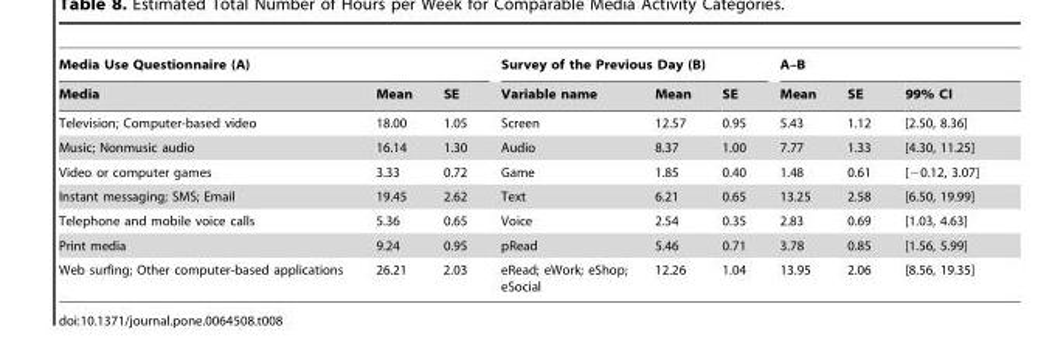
<table><thead><tr><td colspan="3">Media Use Questionnaire (A)</td><td colspan="3">Survey of the Previous Day (B)</td><td colspan="3">A–B</td></tr><tr><td>Media</td><td>Mean</td><td>SE</td><td>Variable name</td><td>Mean</td><td>SE</td><td>Mean</td><td>SE</td><td>99% CI</td></tr></thead><tbody><tr><td>Television; Computer-based video</td><td>18.00</td><td>1.05</td><td>Screen</td><td>12.57</td><td>0.95</td><td>5.43</td><td>1.12</td><td>[2.50, 8.36]</td></tr><tr><td>Music; Nonmusic audio</td><td>16.14</td><td>1.30</td><td>Audio</td><td>8.37</td><td>1.00</td><td>7.77</td><td>1.33</td><td>[4.30, 11.25]</td></tr><tr><td>Video or computer games</td><td>3.33</td><td>0.72</td><td>Game</td><td>1.85</td><td>0.40</td><td>1.48</td><td>0.61</td><td>[−0.12, 3.07]</td></tr><tr><td>Instant messaging; SMS; Email</td><td>19.45</td><td>2.62</td><td>Text</td><td>6.21</td><td>0.65</td><td>13.25</td><td>2.58</td><td>[6.50, 19.99]</td></tr><tr><td>Telephone and mobile voice calls</td><td>5.36</td><td>0.65</td><td>Voice</td><td>2.54</td><td>0.35</td><td>2.83</td><td>0.69</td><td>[1.03, 4.63]</td></tr><tr><td>Print media</td><td>9.24</td><td>0.95</td><td>pRead</td><td>5.46</td><td>0.71</td><td>3.78</td><td>0.85</td><td>[1.56, 5.99]</td></tr><tr><td>Web surfing; Other computer-based applications</td><td>26.21</td><td>2.03</td><td>eRead; eWork; eShop; eSocial</td><td>12.26</td><td>1.04</td><td>13.95</td><td>2.06</td><td>[8.56, 19.35]</td></tr></tbody></table>